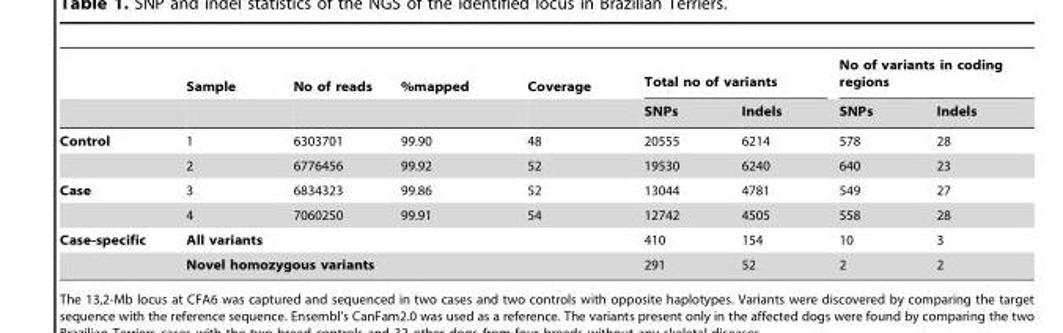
<table><thead><tr><td rowspan="2"></td><td rowspan="2">Sample</td><td rowspan="2">No of reads</td><td rowspan="2">%mapped</td><td rowspan="2">Coverage</td><td colspan="2">Total no of variants</td><td colspan="2">No of variants in coding regions</td></tr><tr><td>SNPs</td><td>Indels</td><td>SNPs</td><td>Indels</td></tr></thead><tbody><tr><td rowspan="2">Control</td><td>1</td><td>6303701</td><td>99.90</td><td>48</td><td>20555</td><td>6214</td><td>578</td><td>28</td></tr><tr><td>2</td><td>6776456</td><td>99.92</td><td>52</td><td>19530</td><td>6240</td><td>640</td><td>23</td></tr><tr><td rowspan="2">Case</td><td>3</td><td>6834323</td><td>99.86</td><td>52</td><td>13044</td><td>4781</td><td>549</td><td>27</td></tr><tr><td>4</td><td>7060250</td><td>99.91</td><td>54</td><td>12742</td><td>4505</td><td>558</td><td>28</td></tr><tr><td rowspan="2">Case-specific</td><td colspan="4">All variants</td><td>410</td><td>154</td><td>10</td><td>3</td></tr><tr><td colspan="4">Novel homozygous variants</td><td>291</td><td>52</td><td>2</td><td>2</td></tr></tbody></table>